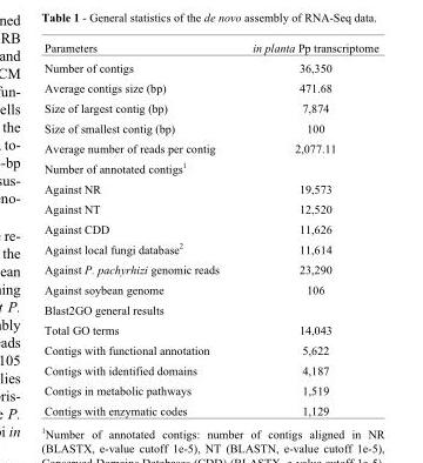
<table><thead><tr><td>Parameters</td><td>in planta Pp transcriptome</td></tr></thead><tbody><tr><td>Number of contigs</td><td>36,350</td></tr><tr><td>Average contigs size (bp)</td><td>471.68</td></tr><tr><td>Size of largest contig (bp)</td><td>7,874</td></tr><tr><td>Size of smallest contig (bp)</td><td>100</td></tr><tr><td>Average number of reads per contig</td><td>2,077.11</td></tr><tr><td colspan="2">Number of annotated contigs<sup>1</sup></td></tr><tr><td>Against NR</td><td>19,573</td></tr><tr><td>Against NT</td><td>12,520</td></tr><tr><td>Against CDD</td><td>11,626</td></tr><tr><td>Against local fungi database<sup>2</sup></td><td>11,614</td></tr><tr><td>Against P. pachyrhizi genomic reads</td><td>23,290</td></tr><tr><td>Against soybean genome</td><td>106</td></tr><tr><td colspan="2">Blast2GO general results</td></tr><tr><td>Total GO terms</td><td>14,043</td></tr><tr><td>Contigs with functional annotation</td><td>5,622</td></tr><tr><td>Contigs with identified domains</td><td>4,187</td></tr><tr><td>Contigs in metabolic pathways</td><td>1,519</td></tr><tr><td>Contigs with enzymatic codes</td><td>1,129</td></tr></tbody></table>